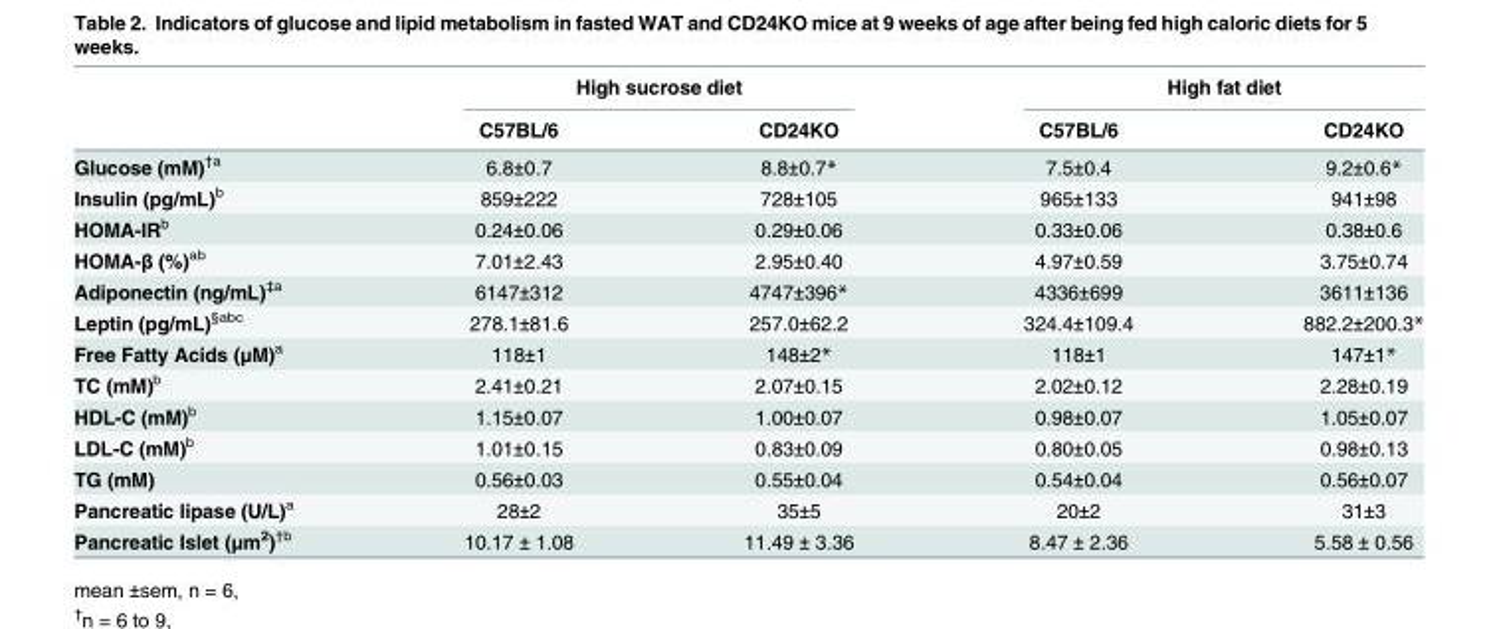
<table><thead><tr><td rowspan="2"></td><td colspan="2">High sucrose diet</td><td colspan="2">High fat diet</td></tr><tr><td>C57BL/6</td><td>CD24KO</td><td>C57BL/6</td><td>CD24KO</td></tr></thead><tbody><tr><td>Glucose (mM)<sup>†a</sup></td><td>6.8±0.7</td><td>8.8±0.7*</td><td>7.5±0.4</td><td>9.2±0.6*</td></tr><tr><td>Insulin (pg/mL)<sup>b</sup></td><td>859±222</td><td>728±105</td><td>965±133</td><td>941±98</td></tr><tr><td>HOMA-IR<sup>b</sup></td><td>0.24±0.06</td><td>0.29±0.06</td><td>0.33±0.06</td><td>0.38±0.6</td></tr><tr><td>HOMA-β (%)<sup>ab</sup></td><td>7.01±2.43</td><td>2.95±0.40</td><td>4.97±0.59</td><td>3.75±0.74</td></tr><tr><td>Adiponectin (ng/mL)<sup>‡a</sup></td><td>6147±312</td><td>4747±396*</td><td>4336±699</td><td>3611±136</td></tr><tr><td>Leptin (pg/mL)<sup>§abc</sup></td><td>278.1±81.6</td><td>257.0±62.2</td><td>324.4±109.4</td><td>882.2±200.3*</td></tr><tr><td>Free Fatty Acids (μM)<sup>a</sup></td><td>118±1</td><td>148±2*</td><td>118±1</td><td>147±1*</td></tr><tr><td>TC (mM)<sup>b</sup></td><td>2.41±0.21</td><td>2.07±0.15</td><td>2.02±0.12</td><td>2.28±0.19</td></tr><tr><td>HDL-C (mM)<sup>b</sup></td><td>1.15±0.07</td><td>1.00±0.07</td><td>0.98±0.07</td><td>1.05±0.07</td></tr><tr><td>LDL-C (mM)<sup>b</sup></td><td>1.01±0.15</td><td>0.83±0.09</td><td>0.80±0.05</td><td>0.98±0.13</td></tr><tr><td>TG (mM)</td><td>0.56±0.03</td><td>0.55±0.04</td><td>0.54±0.04</td><td>0.56±0.07</td></tr><tr><td>Pancreatic lipase (U/L)<sup>a</sup></td><td>28±2</td><td>35±5</td><td>20±2</td><td>31±3</td></tr><tr><td>Pancreatic Islet (μm<sup>2</sup>)<sup>†b</sup></td><td>10.17 ± 1.08</td><td>11.49 ± 3.36</td><td>8.47 ± 2.36</td><td>5.58 ± 0.56</td></tr></tbody></table>